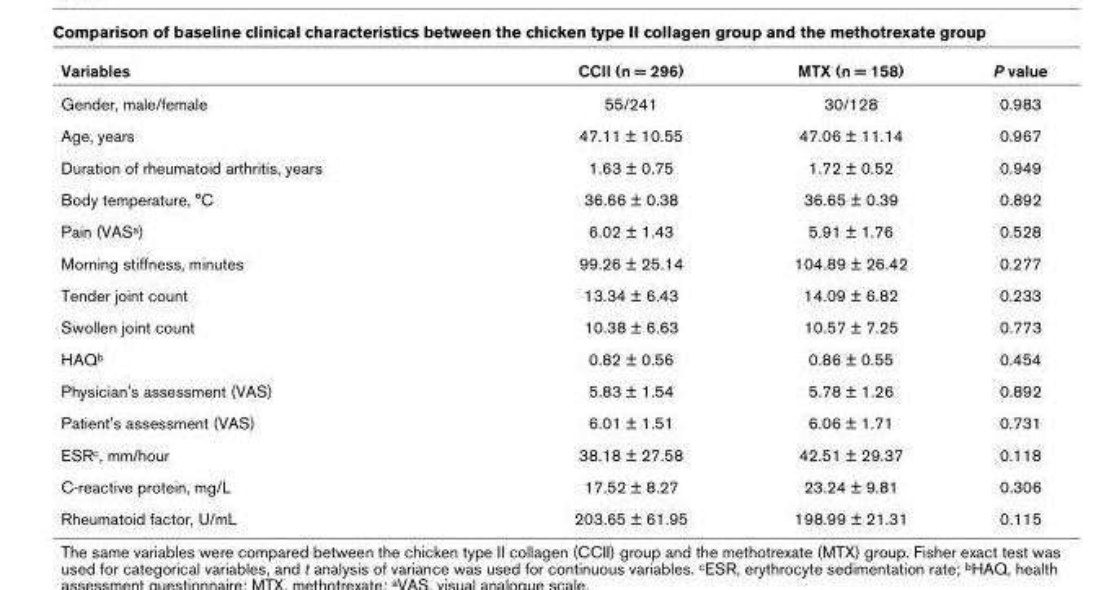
<table><thead><tr><td>Variables</td><td>CCII (n = 296)</td><td>MTX (n = 158)</td><td>P value</td></tr></thead><tbody><tr><td>Gender, male/female</td><td>55/241</td><td>30/128</td><td>0.983</td></tr><tr><td>Age, years</td><td>47.11 ± 10.55</td><td>47.06 ± 11.14</td><td>0.967</td></tr><tr><td>Duration of rheumatoid arthritis, years</td><td>1.63 ± 0.75</td><td>1.72 ± 0.52</td><td>0.949</td></tr><tr><td>Body temperature, °C</td><td>36.66 ± 0.38</td><td>36.65 ± 0.39</td><td>0.892</td></tr><tr><td>Pain (VAS<sup>a</sup>)</td><td>6.02 ± 1.43</td><td>5.91 ± 1.76</td><td>0.528</td></tr><tr><td>Morning stiffness, minutes</td><td>99.26 ± 25.14</td><td>104.89 ± 26.42</td><td>0.277</td></tr><tr><td>Tender joint count</td><td>13.34 ± 6.43</td><td>14.09 ± 6.82</td><td>0.233</td></tr><tr><td>Swollen joint count</td><td>10.38 ± 6.63</td><td>10.57 ± 7.25</td><td>0.773</td></tr><tr><td>HAQ<sup>b</sup></td><td>0.82 ± 0.56</td><td>0.86 ± 0.55</td><td>0.454</td></tr><tr><td>Physician&#x27;s assessment (VAS)</td><td>5.83 ± 1.54</td><td>5.78 ± 1.26</td><td>0.892</td></tr><tr><td>Patient&#x27;s assessment (VAS)</td><td>6.01 ± 1.51</td><td>6.06 ± 1.71</td><td>0.731</td></tr><tr><td>ESR<sup>c</sup>, mm/hour</td><td>38.18 ± 27.58</td><td>42.51 ± 29.37</td><td>0.118</td></tr><tr><td>C-reactive protein, mg/L</td><td>17.52 ± 8.27</td><td>23.24 ± 9.81</td><td>0.306</td></tr><tr><td>Rheumatoid factor, U/mL</td><td>203.65 ± 61.95</td><td>198.99 ± 21.31</td><td>0.115</td></tr></tbody></table>